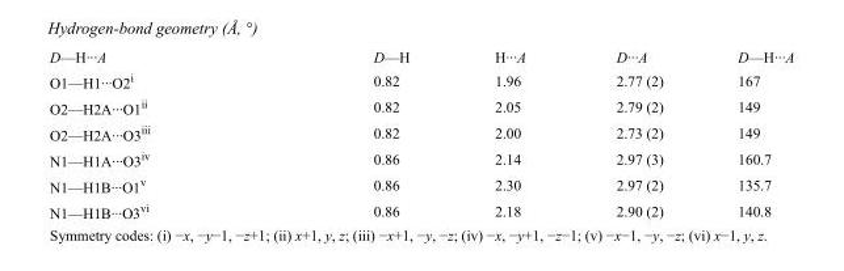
<table><tbody><tr><td>D—H···A</td><td>D—H</td><td>H···A</td><td>D···A</td><td>D—H···A</td></tr><tr><td>O1—H1···O2<sup>i</sup></td><td>0.82</td><td>1.96</td><td>2.77 (2)</td><td>167</td></tr><tr><td>O2—H2A···O1<sup>ii</sup></td><td>0.82</td><td>2.05</td><td>2.79 (2)</td><td>149</td></tr><tr><td>O2—H2A···O3<sup>iii</sup></td><td>0.82</td><td>2.00</td><td>2.73 (2)</td><td>149</td></tr><tr><td>N1—H1A···O3<sup>iv</sup></td><td>0.86</td><td>2.14</td><td>2.97 (3)</td><td>160.7</td></tr><tr><td>N1—H1B···O1<sup>v</sup></td><td>0.86</td><td>2.30</td><td>2.97 (2)</td><td>135.7</td></tr><tr><td>N1—H1B···O3<sup>vi</sup></td><td>0.86</td><td>2.18</td><td>2.90 (2)</td><td>140.8</td></tr></tbody></table>